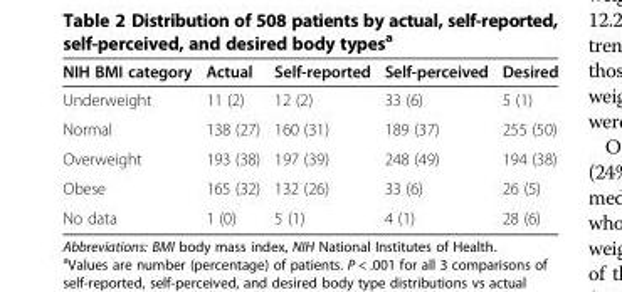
<table><thead><tr><td>NIH BMI category</td><td>Actual</td><td>Self-reported</td><td>Self-perceived</td><td>Desired</td></tr></thead><tbody><tr><td>Underweight</td><td>11 (2)</td><td>12 (2)</td><td>33 (6)</td><td>5 (1)</td></tr><tr><td>Normal</td><td>138 (27)</td><td>160 (31)</td><td>189 (37)</td><td>255 (50)</td></tr><tr><td>Overweight</td><td>193 (38)</td><td>197 (39)</td><td>248 (49)</td><td>194 (38)</td></tr><tr><td>Obese</td><td>165 (32)</td><td>132 (26)</td><td>33 (6)</td><td>26 (5)</td></tr><tr><td>No data</td><td>1 (0)</td><td>5 (1)</td><td>4 (1)</td><td>28 (6)</td></tr></tbody></table>